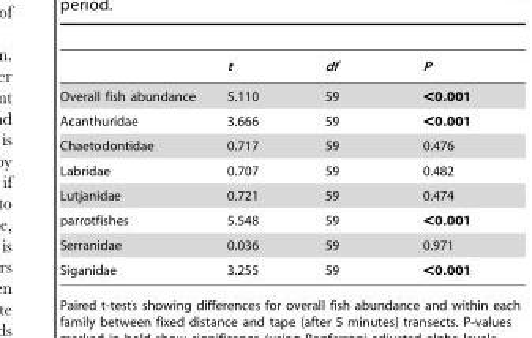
<table><thead><tr><td></td><td>t</td><td>df</td><td>P</td></tr></thead><tbody><tr><td>Overall fish abundance</td><td>5.110</td><td>59</td><td>&lt;0.001</td></tr><tr><td>Acanthuridae</td><td>3.666</td><td>59</td><td>&lt;0.001</td></tr><tr><td>Chaetodontidae</td><td>0.717</td><td>59</td><td>0.476</td></tr><tr><td>Labridae</td><td>0.707</td><td>59</td><td>0.482</td></tr><tr><td>Lutjanidae</td><td>0.721</td><td>59</td><td>0.474</td></tr><tr><td>parrotfishes</td><td>5.548</td><td>59</td><td>&lt;0.001</td></tr><tr><td>Serranidae</td><td>0.036</td><td>59</td><td>0.971</td></tr><tr><td>Siganidae</td><td>3.255</td><td>59</td><td>&lt;0.001</td></tr></tbody></table>